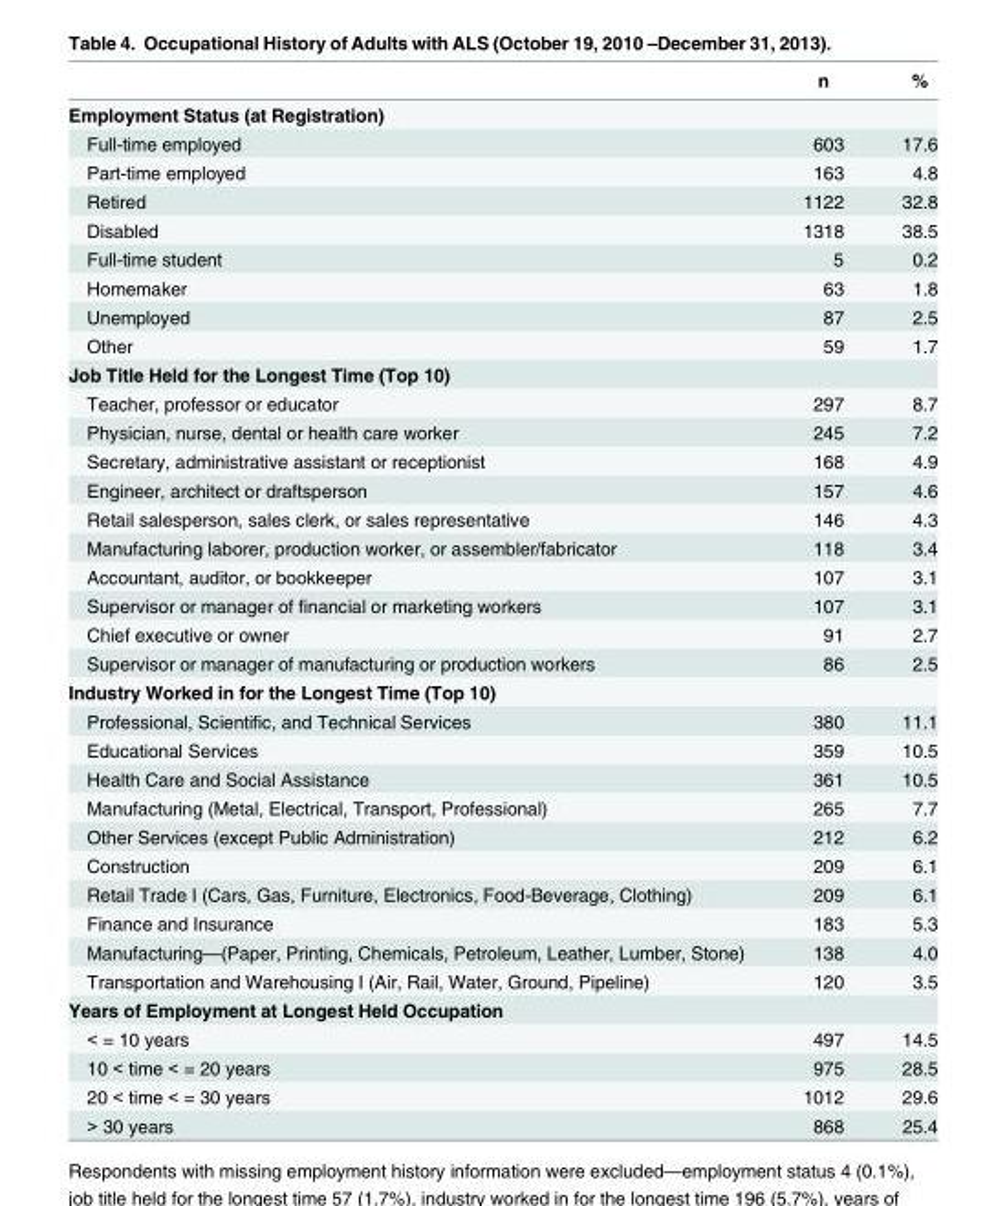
<table><thead><tr><td></td><td>n</td><td>%</td></tr></thead><tbody><tr><td colspan="3">Employment Status (at Registration)</td></tr><tr><td>Full-time employed</td><td>603</td><td>17.6</td></tr><tr><td>Part-time employed</td><td>163</td><td>4.8</td></tr><tr><td>Retired</td><td>1122</td><td>32.8</td></tr><tr><td>Disabled</td><td>1318</td><td>38.5</td></tr><tr><td>Full-time student</td><td>5</td><td>0.2</td></tr><tr><td>Homemaker</td><td>63</td><td>1.8</td></tr><tr><td>Unemployed</td><td>87</td><td>2.5</td></tr><tr><td>Other</td><td>59</td><td>1.7</td></tr><tr><td colspan="3">Job Title Held for the Longest Time (Top 10)</td></tr><tr><td>Teacher, professor or educator</td><td>297</td><td>8.7</td></tr><tr><td>Physician, nurse, dental or health care worker</td><td>245</td><td>7.2</td></tr><tr><td>Secretary, administrative assistant or receptionist</td><td>168</td><td>4.9</td></tr><tr><td>Engineer, architect or draftsperson</td><td>157</td><td>4.6</td></tr><tr><td>Retail salesperson, sales clerk, or sales representative</td><td>146</td><td>4.3</td></tr><tr><td>Manufacturing laborer, production worker, or assembler/fabricator</td><td>118</td><td>3.4</td></tr><tr><td>Accountant, auditor, or bookkeeper</td><td>107</td><td>3.1</td></tr><tr><td>Supervisor or manager of financial or marketing workers</td><td>107</td><td>3.1</td></tr><tr><td>Chief executive or owner</td><td>91</td><td>2.7</td></tr><tr><td>Supervisor or manager of manufacturing or production workers</td><td>86</td><td>2.5</td></tr><tr><td colspan="3">Industry Worked in for the Longest Time (Top 10)</td></tr><tr><td>Professional, Scientific, and Technical Services</td><td>380</td><td>11.1</td></tr><tr><td>Educational Services</td><td>359</td><td>10.5</td></tr><tr><td>Health Care and Social Assistance</td><td>361</td><td>10.5</td></tr><tr><td>Manufacturing (Metal, Electrical, Transport, Professional)</td><td>265</td><td>7.7</td></tr><tr><td>Other Services (except Public Administration)</td><td>212</td><td>6.2</td></tr><tr><td>Construction</td><td>209</td><td>6.1</td></tr><tr><td>Retail Trade I (Cars, Gas, Furniture, Electronics, Food-Beverage, Clothing)</td><td>209</td><td>6.1</td></tr><tr><td>Finance and Insurance</td><td>183</td><td>5.3</td></tr><tr><td>Manufacturing—(Paper, Printing, Chemicals, Petroleum, Leather, Lumber, Stone)</td><td>138</td><td>4.0</td></tr><tr><td>Transportation and Warehousing I (Air, Rail, Water, Ground, Pipeline)</td><td>120</td><td>3.5</td></tr><tr><td colspan="3">Years of Employment at Longest Held Occupation</td></tr><tr><td>&lt; = 10 years</td><td>497</td><td>14.5</td></tr><tr><td>10 &lt; time &lt; = 20 years</td><td>975</td><td>28.5</td></tr><tr><td>20 &lt; time &lt; = 30 years</td><td>1012</td><td>29.6</td></tr><tr><td>&gt; 30 years</td><td>868</td><td>25.4</td></tr></tbody></table>